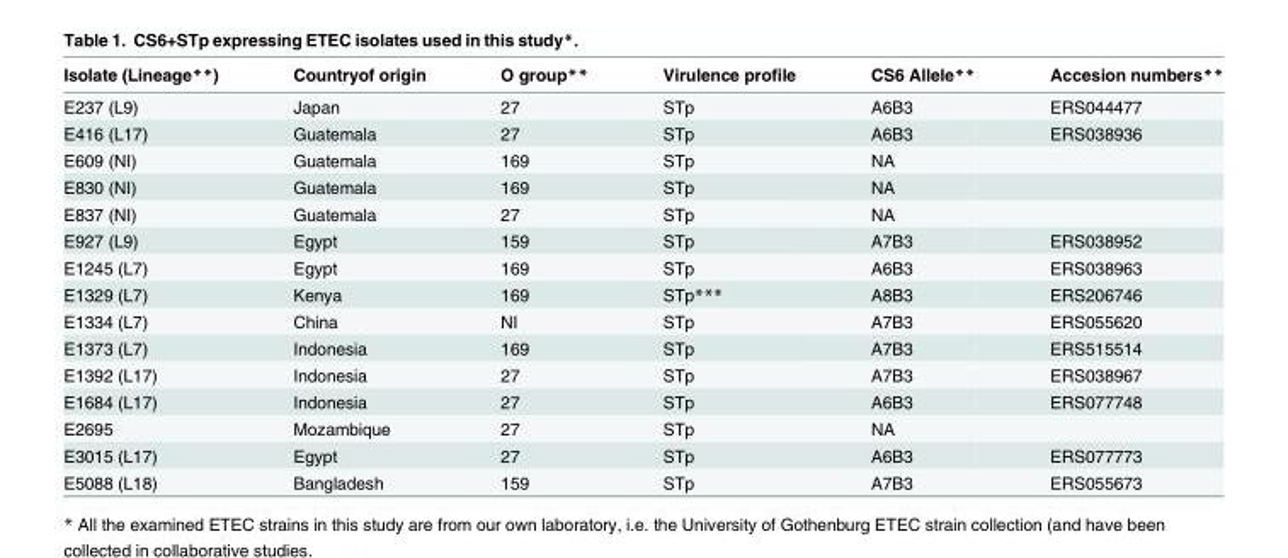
<table><thead><tr><td>Isolate (Lineage**)</td><td>Countryof origin</td><td>O group**</td><td>Virulence profile</td><td>CS6 Allele**</td><td>Accesion numbers**</td></tr></thead><tbody><tr><td>E237 (L9)</td><td>Japan</td><td>27</td><td>STp</td><td>A6B3</td><td>ERS044477</td></tr><tr><td>E416 (L17)</td><td>Guatemala</td><td>27</td><td>STp</td><td>A6B3</td><td>ERS038936</td></tr><tr><td>E609 (NI)</td><td>Guatemala</td><td>169</td><td>STp</td><td>NA</td><td></td></tr><tr><td>E830 (NI)</td><td>Guatemala</td><td>169</td><td>STp</td><td>NA</td><td></td></tr><tr><td>E837 (NI)</td><td>Guatemala</td><td>27</td><td>STp</td><td>NA</td><td></td></tr><tr><td>E927 (L9)</td><td>Egypt</td><td>159</td><td>STp</td><td>A7B3</td><td>ERS038952</td></tr><tr><td>E1245 (L7)</td><td>Egypt</td><td>169</td><td>STp</td><td>A6B3</td><td>ERS038963</td></tr><tr><td>E1329 (L7)</td><td>Kenya</td><td>169</td><td>STp***</td><td>A8B3</td><td>ERS206746</td></tr><tr><td>E1334 (L7)</td><td>China</td><td>NI</td><td>STp</td><td>A7B3</td><td>ERS055620</td></tr><tr><td>E1373 (L7)</td><td>Indonesia</td><td>169</td><td>STp</td><td>A7B3</td><td>ERS515514</td></tr><tr><td>E1392 (L17)</td><td>Indonesia</td><td>27</td><td>STp</td><td>A7B3</td><td>ERS038967</td></tr><tr><td>E1684 (L17)</td><td>Indonesia</td><td>27</td><td>STp</td><td>A6B3</td><td>ERS077748</td></tr><tr><td>E2695</td><td>Mozambique</td><td>27</td><td>STp</td><td>NA</td><td></td></tr><tr><td>E3015 (L17)</td><td>Egypt</td><td>27</td><td>STp</td><td>A6B3</td><td>ERS077773</td></tr><tr><td>E5088 (L18)</td><td>Bangladesh</td><td>159</td><td>STp</td><td>A7B3</td><td>ERS055673</td></tr></tbody></table>